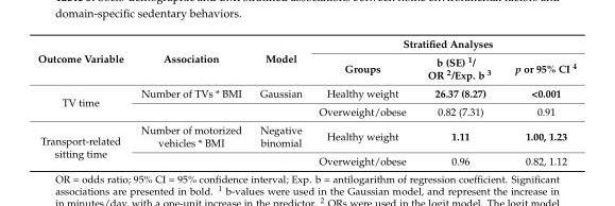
<table><thead><tr><td rowspan="2">Outcome Variable</td><td rowspan="2">Association</td><td rowspan="2">Model</td><td colspan="3">Stratified Analyses</td></tr><tr><td>Groups</td><td>b (SE) <sup>1</sup>/ OR <sup>2</sup>/Exp. b <sup>3</sup></td><td>p or 95% CI <sup>4</sup></td></tr></thead><tbody><tr><td rowspan="2">TV time</td><td>Number of TVs * BMI</td><td>Gaussian</td><td>Healthy weight</td><td>26.37 (8.27)</td><td>&lt;0.001</td></tr><tr><td></td><td></td><td>Overweight/obese</td><td>0.82 (7.31)</td><td>0.91</td></tr><tr><td rowspan="2">Transport-related sitting time</td><td>Number of motorized vehicles * BMI</td><td>Negative binomial</td><td>Healthy weight</td><td>1.11</td><td>1.00, 1.23</td></tr><tr><td></td><td></td><td>Overweight/obese</td><td>0.96</td><td>0.82, 1.12</td></tr></tbody></table>